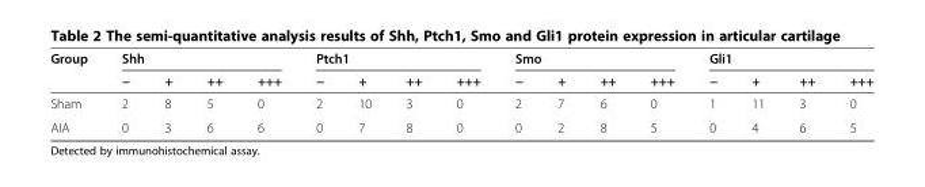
<table><thead><tr><td rowspan="2">Group</td><td colspan="4">Shh</td><td colspan="4">Ptch1</td><td colspan="4">Smo</td><td colspan="4">Gli1</td></tr><tr><td>−</td><td>+</td><td>++</td><td>+++</td><td>−</td><td>+</td><td>++</td><td>+++</td><td>−</td><td>+</td><td>++</td><td>+++</td><td>−</td><td>+</td><td>++</td><td>+++</td></tr></thead><tbody><tr><td>Sham</td><td>2</td><td>8</td><td>5</td><td>0</td><td>2</td><td>10</td><td>3</td><td>0</td><td>2</td><td>7</td><td>6</td><td>0</td><td>1</td><td>11</td><td>3</td><td>0</td></tr><tr><td>AIA</td><td>0</td><td>3</td><td>6</td><td>6</td><td>0</td><td>7</td><td>8</td><td>0</td><td>0</td><td>2</td><td>8</td><td>5</td><td>0</td><td>4</td><td>6</td><td>5</td></tr></tbody></table>